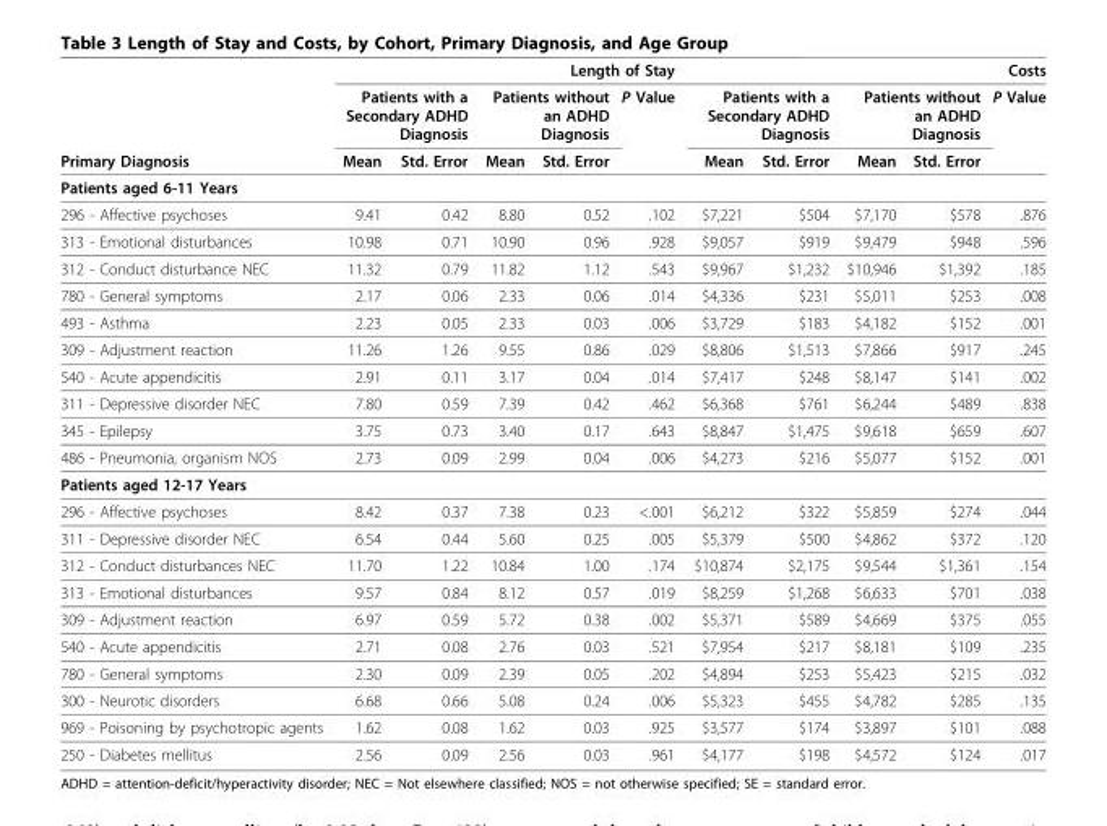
<table><thead><tr><td rowspan="3">Primary Diagnosis</td><td colspan="5">Length of Stay</td><td colspan="5">Costs</td></tr><tr><td colspan="2">Patients with a Secondary ADHD Diagnosis</td><td colspan="2">Patients without an ADHD Diagnosis</td><td rowspan="2">P Value</td><td colspan="2">Patients with a Secondary ADHD Diagnosis</td><td colspan="2">Patients without an ADHD Diagnosis</td><td rowspan="2">P Value</td></tr><tr><td>Mean</td><td>Std. Error</td><td>Mean</td><td>Std. Error</td><td>Mean</td><td>Std. Error</td><td>Mean</td><td>Std. Error</td></tr></thead><tbody><tr><td colspan="11">Patients aged 6-11 Years</td></tr><tr><td>296 - Affective psychoses</td><td>9.41</td><td>0.42</td><td>8.80</td><td>0.52</td><td>.102</td><td>$7,221</td><td>$504</td><td>$7,170</td><td>$578</td><td>.876</td></tr><tr><td>313 - Emotional disturbances</td><td>10.98</td><td>0.71</td><td>10.90</td><td>0.96</td><td>.928</td><td>$9,057</td><td>$919</td><td>$9,479</td><td>$948</td><td>.596</td></tr><tr><td>312 - Conduct disturbance NEC</td><td>11.32</td><td>0.79</td><td>11.82</td><td>1.12</td><td>.543</td><td>$9,967</td><td>$1,232</td><td>$10,946</td><td>$1,392</td><td>.185</td></tr><tr><td>780 - General symptoms</td><td>2.17</td><td>0.06</td><td>2.33</td><td>0.06</td><td>.014</td><td>$4,336</td><td>$231</td><td>$5,011</td><td>$253</td><td>.008</td></tr><tr><td>493 - Asthma</td><td>2.23</td><td>0.05</td><td>2.33</td><td>0.03</td><td>.006</td><td>$3,729</td><td>$183</td><td>$4,182</td><td>$152</td><td>.001</td></tr><tr><td>309 - Adjustment reaction</td><td>11.26</td><td>1.26</td><td>9.55</td><td>0.86</td><td>.029</td><td>$8,806</td><td>$1,513</td><td>$7,866</td><td>$917</td><td>.245</td></tr><tr><td>540 - Acute appendicitis</td><td>2.91</td><td>0.11</td><td>3.17</td><td>0.04</td><td>.014</td><td>$7,417</td><td>$248</td><td>$8,147</td><td>$141</td><td>.002</td></tr><tr><td>311 - Depressive disorder NEC</td><td>7.80</td><td>0.59</td><td>7.39</td><td>0.42</td><td>.462</td><td>$6,368</td><td>$761</td><td>$6,244</td><td>$489</td><td>.838</td></tr><tr><td>345 - Epilepsy</td><td>3.75</td><td>0.73</td><td>3.40</td><td>0.17</td><td>.643</td><td>$8,847</td><td>$1,475</td><td>$9,618</td><td>$659</td><td>.607</td></tr><tr><td>486 - Pneumonia, organism NOS</td><td>2.73</td><td>0.09</td><td>2.99</td><td>0.04</td><td>.006</td><td>$4,273</td><td>$216</td><td>$5,077</td><td>$152</td><td>.001</td></tr><tr><td colspan="11">Patients aged 12-17 Years</td></tr><tr><td>296 - Affective psychoses</td><td>8.42</td><td>0.37</td><td>7.38</td><td>0.23</td><td>&lt;.001</td><td>$6,212</td><td>$322</td><td>$5,859</td><td>$274</td><td>.044</td></tr><tr><td>311 - Depressive disorder NEC</td><td>6.54</td><td>0.44</td><td>5.60</td><td>0.25</td><td>.005</td><td>$5,379</td><td>$500</td><td>$4,862</td><td>$372</td><td>.120</td></tr><tr><td>312 - Conduct disturbances NEC</td><td>11.70</td><td>1.22</td><td>10.84</td><td>1.00</td><td>.174</td><td>$10,874</td><td>$2,175</td><td>$9,544</td><td>$1,361</td><td>.154</td></tr><tr><td>313 - Emotional disturbances</td><td>9.57</td><td>0.84</td><td>8.12</td><td>0.57</td><td>.019</td><td>$8,259</td><td>$1,268</td><td>$6,633</td><td>$701</td><td>.038</td></tr><tr><td>309 - Adjustment reaction</td><td>6.97</td><td>0.59</td><td>5.72</td><td>0.38</td><td>.002</td><td>$5,371</td><td>$589</td><td>$4,669</td><td>$375</td><td>.055</td></tr><tr><td>540 - Acute appendicitis</td><td>2.71</td><td>0.08</td><td>2.76</td><td>0.03</td><td>.521</td><td>$7,954</td><td>$217</td><td>$8,181</td><td>$109</td><td>.235</td></tr><tr><td>780 - General symptoms</td><td>2.30</td><td>0.09</td><td>2.39</td><td>0.05</td><td>.202</td><td>$4,894</td><td>$253</td><td>$5,423</td><td>$215</td><td>.032</td></tr><tr><td>300 - Neurotic disorders</td><td>6.68</td><td>0.66</td><td>5.08</td><td>0.24</td><td>.006</td><td>$5,323</td><td>$455</td><td>$4,782</td><td>$285</td><td>.135</td></tr><tr><td>969 - Poisoning by psychotropic agents</td><td>1.62</td><td>0.08</td><td>1.62</td><td>0.03</td><td>.925</td><td>$3,577</td><td>$174</td><td>$3,897</td><td>$101</td><td>.088</td></tr><tr><td>250 - Diabetes mellitus</td><td>2.56</td><td>0.09</td><td>2.56</td><td>0.03</td><td>.961</td><td>$4,177</td><td>$198</td><td>$4,572</td><td>$124</td><td>.017</td></tr></tbody></table>